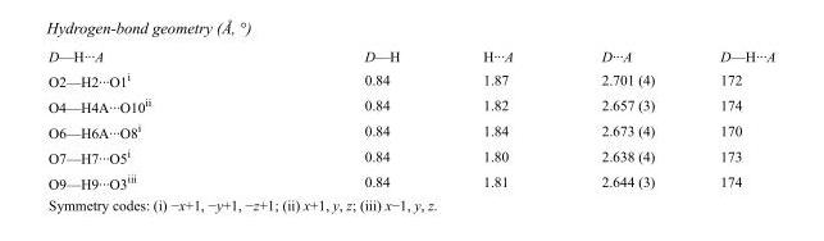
<table><tbody><tr><td>D—H···A</td><td>D—H</td><td>H···A</td><td>D···A</td><td>D—H···A</td></tr><tr><td>O2—H2···O1<sup>i</sup></td><td>0.84</td><td>1.87</td><td>2.701 (4)</td><td>172</td></tr><tr><td>O4—H4A···O10<sup>ii</sup></td><td>0.84</td><td>1.82</td><td>2.657 (3)</td><td>174</td></tr><tr><td>O6—H6A···O8<sup>i</sup></td><td>0.84</td><td>1.84</td><td>2.673 (4)</td><td>170</td></tr><tr><td>O7—H7···O5<sup>i</sup></td><td>0.84</td><td>1.80</td><td>2.638 (4)</td><td>173</td></tr><tr><td>O9—H9···O3<sup>iii</sup></td><td>0.84</td><td>1.81</td><td>2.644 (3)</td><td>174</td></tr></tbody></table>